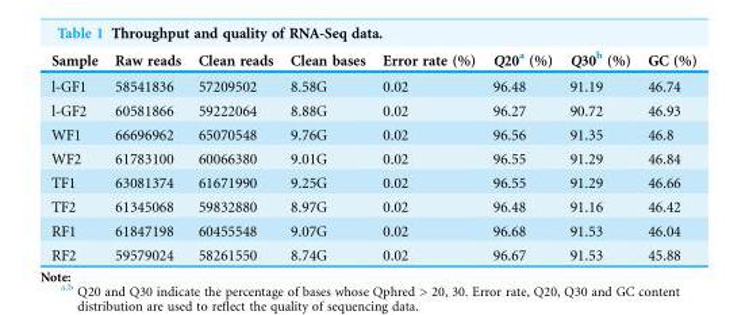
<table><thead><tr><td>Sample</td><td>Raw reads</td><td>Clean reads</td><td>Clean bases</td><td>Error rate (%)</td><td>Q20<sup>a</sup> (%)</td><td>Q30<sup>b</sup> (%)</td><td>GC (%)</td></tr></thead><tbody><tr><td>l-GF1</td><td>58541836</td><td>57209502</td><td>8.58G</td><td>0.02</td><td>96.48</td><td>91.19</td><td>46.74</td></tr><tr><td>l-GF2</td><td>60581866</td><td>59222064</td><td>8.88G</td><td>0.02</td><td>96.27</td><td>90.72</td><td>46.93</td></tr><tr><td>WF1</td><td>66696962</td><td>65070548</td><td>9.76G</td><td>0.02</td><td>96.56</td><td>91.35</td><td>46.8</td></tr><tr><td>WF2</td><td>61783100</td><td>60066380</td><td>9.01G</td><td>0.02</td><td>96.55</td><td>91.29</td><td>46.84</td></tr><tr><td>TF1</td><td>63081374</td><td>61671990</td><td>9.25G</td><td>0.02</td><td>96.55</td><td>91.29</td><td>46.66</td></tr><tr><td>TF2</td><td>61345068</td><td>59832880</td><td>8.97G</td><td>0.02</td><td>96.48</td><td>91.16</td><td>46.42</td></tr><tr><td>RF1</td><td>61847198</td><td>60455548</td><td>9.07G</td><td>0.02</td><td>96.68</td><td>91.53</td><td>46.04</td></tr><tr><td>RF2</td><td>59579024</td><td>58261550</td><td>8.74G</td><td>0.02</td><td>96.67</td><td>91.53</td><td>45.88</td></tr></tbody></table>